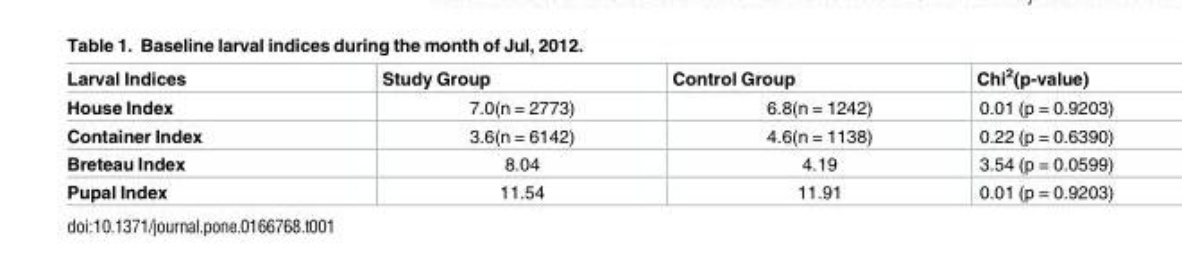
<table><thead><tr><td>Larval Indices</td><td>Study Group</td><td>Control Group</td><td>Chi<sup>2</sup>(p-value)</td></tr></thead><tbody><tr><td>House Index</td><td>7.0(n = 2773)</td><td>6.8(n = 1242)</td><td>0.01 (p = 0.9203)</td></tr><tr><td>Container Index</td><td>3.6(n = 6142)</td><td>4.6(n = 1138)</td><td>0.22 (p = 0.6390)</td></tr><tr><td>Breteau Index</td><td>8.04</td><td>4.19</td><td>3.54 (p = 0.0599)</td></tr><tr><td>Pupal Index</td><td>11.54</td><td>11.91</td><td>0.01 (p = 0.9203)</td></tr></tbody></table>